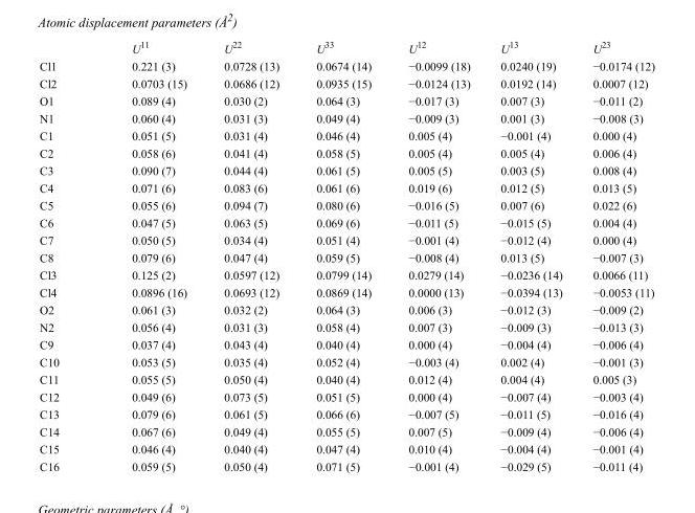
<table><thead><tr><td></td><td>U<sup>11</sup></td><td>U<sup>22</sup></td><td>U<sup>33</sup></td><td>U<sup>12</sup></td><td>U<sup>13</sup></td><td>U<sup>23</sup></td></tr></thead><tbody><tr><td>Cl1</td><td>0.221 (3)</td><td>0.0728 (13)</td><td>0.0674 (14)</td><td>−0.0099 (18)</td><td>0.0240 (19)</td><td>−0.0174 (12)</td></tr><tr><td>Cl2</td><td>0.0703 (15)</td><td>0.0686 (12)</td><td>0.0935 (15)</td><td>−0.0124 (13)</td><td>0.0192 (14)</td><td>0.0007 (12)</td></tr><tr><td>O1</td><td>0.089 (4)</td><td>0.030 (2)</td><td>0.064 (3)</td><td>−0.017 (3)</td><td>0.007 (3)</td><td>−0.011 (2)</td></tr><tr><td>N1</td><td>0.060 (4)</td><td>0.031 (3)</td><td>0.049 (4)</td><td>−0.009 (3)</td><td>0.001 (3)</td><td>−0.008 (3)</td></tr><tr><td>C1</td><td>0.051 (5)</td><td>0.031 (4)</td><td>0.046 (4)</td><td>0.005 (4)</td><td>−0.001 (4)</td><td>0.000 (4)</td></tr><tr><td>C2</td><td>0.058 (6)</td><td>0.041 (4)</td><td>0.058 (5)</td><td>0.005 (4)</td><td>0.005 (4)</td><td>0.006 (4)</td></tr><tr><td>C3</td><td>0.090 (7)</td><td>0.044 (4)</td><td>0.061 (5)</td><td>0.005 (5)</td><td>0.003 (5)</td><td>0.008 (4)</td></tr><tr><td>C4</td><td>0.071 (6)</td><td>0.083 (6)</td><td>0.061 (6)</td><td>0.019 (6)</td><td>0.012 (5)</td><td>0.013 (5)</td></tr><tr><td>C5</td><td>0.055 (6)</td><td>0.094 (7)</td><td>0.080 (6)</td><td>−0.016 (5)</td><td>0.007 (6)</td><td>0.022 (6)</td></tr><tr><td>C6</td><td>0.047 (5)</td><td>0.063 (5)</td><td>0.069 (6)</td><td>−0.011 (5)</td><td>−0.015 (5)</td><td>0.004 (4)</td></tr><tr><td>C7</td><td>0.050 (5)</td><td>0.034 (4)</td><td>0.051 (4)</td><td>−0.001 (4)</td><td>−0.012 (4)</td><td>0.000 (4)</td></tr><tr><td>C8</td><td>0.079 (6)</td><td>0.047 (4)</td><td>0.059 (5)</td><td>−0.008 (4)</td><td>0.013 (5)</td><td>−0.007 (3)</td></tr><tr><td>Cl3</td><td>0.125 (2)</td><td>0.0597 (12)</td><td>0.0799 (14)</td><td>0.0279 (14)</td><td>−0.0236 (14)</td><td>0.0066 (11)</td></tr><tr><td>Cl4</td><td>0.0896 (16)</td><td>0.0693 (12)</td><td>0.0869 (14)</td><td>0.0000 (13)</td><td>−0.0394 (13)</td><td>−0.0053 (11)</td></tr><tr><td>O2</td><td>0.061 (3)</td><td>0.032 (2)</td><td>0.064 (3)</td><td>0.006 (3)</td><td>−0.012 (3)</td><td>−0.009 (2)</td></tr><tr><td>N2</td><td>0.056 (4)</td><td>0.031 (3)</td><td>0.058 (4)</td><td>0.007 (3)</td><td>−0.009 (3)</td><td>−0.013 (3)</td></tr><tr><td>C9</td><td>0.037 (4)</td><td>0.043 (4)</td><td>0.040 (4)</td><td>0.000 (4)</td><td>−0.004 (4)</td><td>−0.006 (4)</td></tr><tr><td>C10</td><td>0.053 (5)</td><td>0.035 (4)</td><td>0.052 (4)</td><td>−0.003 (4)</td><td>0.002 (4)</td><td>−0.001 (3)</td></tr><tr><td>C11</td><td>0.055 (5)</td><td>0.050 (4)</td><td>0.040 (4)</td><td>0.012 (4)</td><td>0.004 (4)</td><td>0.005 (3)</td></tr><tr><td>C12</td><td>0.049 (6)</td><td>0.073 (5)</td><td>0.051 (5)</td><td>0.000 (4)</td><td>−0.007 (4)</td><td>−0.003 (4)</td></tr><tr><td>C13</td><td>0.079 (6)</td><td>0.061 (5)</td><td>0.066 (6)</td><td>−0.007 (5)</td><td>−0.011 (5)</td><td>−0.016 (4)</td></tr><tr><td>C14</td><td>0.067 (6)</td><td>0.049 (4)</td><td>0.055 (5)</td><td>0.007 (5)</td><td>−0.009 (4)</td><td>−0.006 (4)</td></tr><tr><td>C15</td><td>0.046 (4)</td><td>0.040 (4)</td><td>0.047 (4)</td><td>0.010 (4)</td><td>−0.004 (4)</td><td>−0.001 (4)</td></tr><tr><td>C16</td><td>0.059 (5)</td><td>0.050 (4)</td><td>0.071 (5)</td><td>−0.001 (4)</td><td>−0.029 (5)</td><td>−0.011 (4)</td></tr></tbody></table>